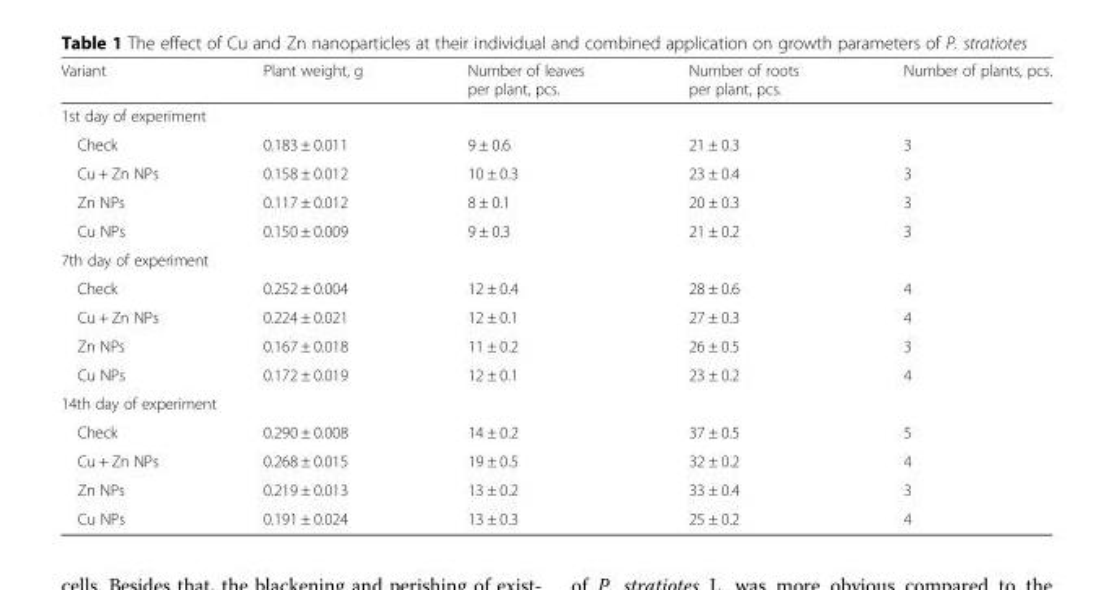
<table><thead><tr><td>Variant</td><td>Plant weight, g</td><td>Number of leaves per plant, pcs.</td><td>Number of roots per plant, pcs.</td><td>Number of plants, pcs.</td></tr></thead><tbody><tr><td colspan="5">1st day of experiment</td></tr><tr><td>Check</td><td>0.183 ± 0.011</td><td>9 ± 0.6</td><td>21 ± 0.3</td><td>3</td></tr><tr><td>Сu + Zn NPs</td><td>0.158 ± 0.012</td><td>10 ± 0.3</td><td>23 ± 0.4</td><td>3</td></tr><tr><td>Zn NPs</td><td>0.117 ± 0.012</td><td>8 ± 0.1</td><td>20 ± 0.3</td><td>3</td></tr><tr><td>Сu NPs</td><td>0.150 ± 0.009</td><td>9 ± 0.3</td><td>21 ± 0.2</td><td>3</td></tr><tr><td colspan="5">7th day of experiment</td></tr><tr><td>Check</td><td>0.252 ± 0.004</td><td>12 ± 0.4</td><td>28 ± 0.6</td><td>4</td></tr><tr><td>Сu + Zn NPs</td><td>0.224 ± 0.021</td><td>12 ± 0.1</td><td>27 ± 0.3</td><td>4</td></tr><tr><td>Zn NPs</td><td>0.167 ± 0.018</td><td>11 ± 0.2</td><td>26 ± 0.5</td><td>3</td></tr><tr><td>Сu NPs</td><td>0.172 ± 0.019</td><td>12 ± 0.1</td><td>23 ± 0.2</td><td>4</td></tr><tr><td colspan="5">14th day of experiment</td></tr><tr><td>Check</td><td>0.290 ± 0.008</td><td>14 ± 0.2</td><td>37 ± 0.5</td><td>5</td></tr><tr><td>Сu + Zn NPs</td><td>0.268 ± 0.015</td><td>19 ± 0.5</td><td>32 ± 0.2</td><td>4</td></tr><tr><td>Zn NPs</td><td>0.219 ± 0.013</td><td>13 ± 0.2</td><td>33 ± 0.4</td><td>3</td></tr><tr><td>Сu NPs</td><td>0.191 ± 0.024</td><td>13 ± 0.3</td><td>25 ± 0.2</td><td>4</td></tr></tbody></table>